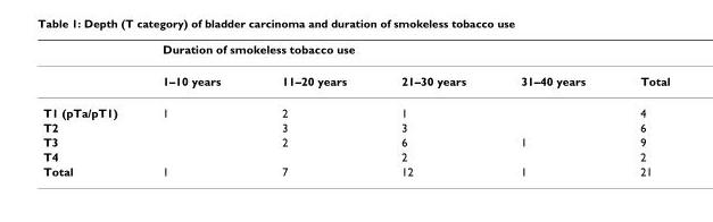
<table><thead><tr><td rowspan="2"></td><td colspan="5">Duration of smokeless tobacco use</td></tr><tr><td>1–10 years</td><td>11–20 years</td><td>21–30 years</td><td>31–40 years</td><td>Total</td></tr></thead><tbody><tr><td>T1 (pTa/pT1)</td><td>1</td><td>2</td><td>1</td><td></td><td>4</td></tr><tr><td>T2</td><td></td><td>3</td><td>3</td><td></td><td>6</td></tr><tr><td>T3</td><td></td><td>2</td><td>6</td><td>1</td><td>9</td></tr><tr><td>T4</td><td></td><td></td><td>2</td><td></td><td>2</td></tr><tr><td>Total</td><td>1</td><td>7</td><td>12</td><td>1</td><td>21</td></tr></tbody></table>